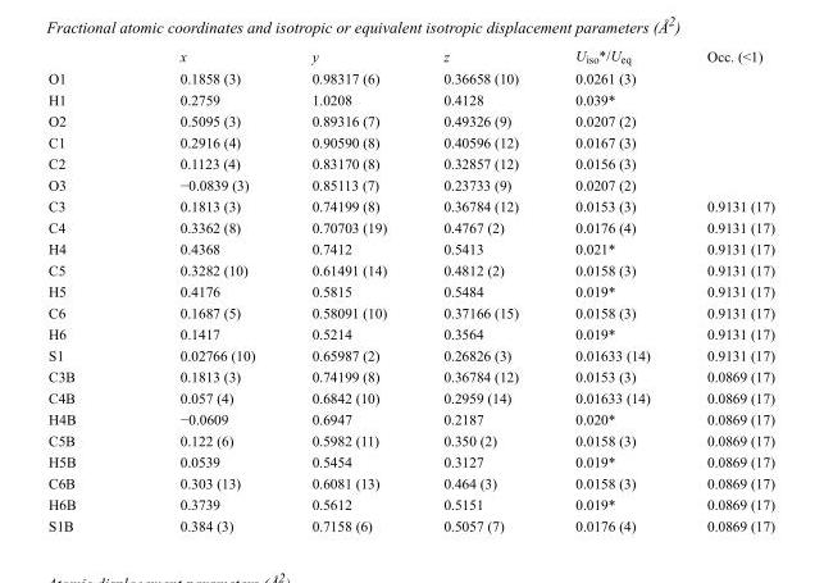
<table><thead><tr><td></td><td>x</td><td>y</td><td>z</td><td>U<sub>iso</sub>*/U<sub>eq</sub></td><td>Occ. (&lt;1)</td></tr></thead><tbody><tr><td>O1</td><td>0.1858 (3)</td><td>0.98317 (6)</td><td>0.36658 (10)</td><td>0.0261 (3)</td><td></td></tr><tr><td>H1</td><td>0.2759</td><td>1.0208</td><td>0.4128</td><td>0.039*</td><td></td></tr><tr><td>O2</td><td>0.5095 (3)</td><td>0.89316 (7)</td><td>0.49326 (9)</td><td>0.0207 (2)</td><td></td></tr><tr><td>C1</td><td>0.2916 (4)</td><td>0.90590 (8)</td><td>0.40596 (12)</td><td>0.0167 (3)</td><td></td></tr><tr><td>C2</td><td>0.1123 (4)</td><td>0.83170 (8)</td><td>0.32857 (12)</td><td>0.0156 (3)</td><td></td></tr><tr><td>O3</td><td>−0.0839 (3)</td><td>0.85113 (7)</td><td>0.23733 (9)</td><td>0.0207 (2)</td><td></td></tr><tr><td>C3</td><td>0.1813 (3)</td><td>0.74199 (8)</td><td>0.36784 (12)</td><td>0.0153 (3)</td><td>0.9131 (17)</td></tr><tr><td>C4</td><td>0.3362 (8)</td><td>0.70703 (19)</td><td>0.4767 (2)</td><td>0.0176 (4)</td><td>0.9131 (17)</td></tr><tr><td>H4</td><td>0.4368</td><td>0.7412</td><td>0.5413</td><td>0.021*</td><td>0.9131 (17)</td></tr><tr><td>C5</td><td>0.3282 (10)</td><td>0.61491 (14)</td><td>0.4812 (2)</td><td>0.0158 (3)</td><td>0.9131 (17)</td></tr><tr><td>H5</td><td>0.4176</td><td>0.5815</td><td>0.5484</td><td>0.019*</td><td>0.9131 (17)</td></tr><tr><td>C6</td><td>0.1687 (5)</td><td>0.58091 (10)</td><td>0.37166 (15)</td><td>0.0158 (3)</td><td>0.9131 (17)</td></tr><tr><td>H6</td><td>0.1417</td><td>0.5214</td><td>0.3564</td><td>0.019*</td><td>0.9131 (17)</td></tr><tr><td>S1</td><td>0.02766 (10)</td><td>0.65987 (2)</td><td>0.26826 (3)</td><td>0.01633 (14)</td><td>0.9131 (17)</td></tr><tr><td>C3B</td><td>0.1813 (3)</td><td>0.74199 (8)</td><td>0.36784 (12)</td><td>0.0153 (3)</td><td>0.0869 (17)</td></tr><tr><td>C4B</td><td>0.057 (4)</td><td>0.6842 (10)</td><td>0.2959 (14)</td><td>0.01633 (14)</td><td>0.0869 (17)</td></tr><tr><td>H4B</td><td>−0.0609</td><td>0.6947</td><td>0.2187</td><td>0.020*</td><td>0.0869 (17)</td></tr><tr><td>C5B</td><td>0.122 (6)</td><td>0.5982 (11)</td><td>0.350 (2)</td><td>0.0158 (3)</td><td>0.0869 (17)</td></tr><tr><td>H5B</td><td>0.0539</td><td>0.5454</td><td>0.3127</td><td>0.019*</td><td>0.0869 (17)</td></tr><tr><td>C6B</td><td>0.303 (13)</td><td>0.6081 (13)</td><td>0.464 (3)</td><td>0.0158 (3)</td><td>0.0869 (17)</td></tr><tr><td>H6B</td><td>0.3739</td><td>0.5612</td><td>0.5151</td><td>0.019*</td><td>0.0869 (17)</td></tr><tr><td>S1B</td><td>0.384 (3)</td><td>0.7158 (6)</td><td>0.5057 (7)</td><td>0.0176 (4)</td><td>0.0869 (17)</td></tr></tbody></table>